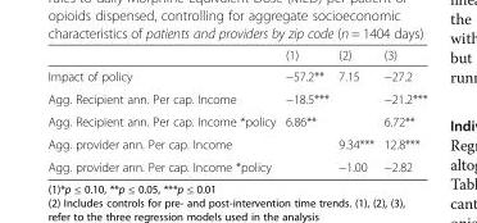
<table><thead><tr><td></td><td>(1)</td><td>(2)</td><td>(3)</td></tr></thead><tbody><tr><td>Impact of policy</td><td>−57.2**</td><td>7.15</td><td>−27.2</td></tr><tr><td>Agg. Recipient ann. Per cap. Income</td><td>−18.5***</td><td></td><td>−21.2***</td></tr><tr><td>Agg. Recipient ann. Per cap. Income *policy</td><td>6.86**</td><td></td><td>6.72**</td></tr><tr><td>Agg. provider ann. Per cap. Income</td><td></td><td>9.34***</td><td>12.8***</td></tr><tr><td>Agg. provider ann. Per cap. Income *policy</td><td></td><td>−1.00</td><td>−2.82</td></tr></tbody></table>